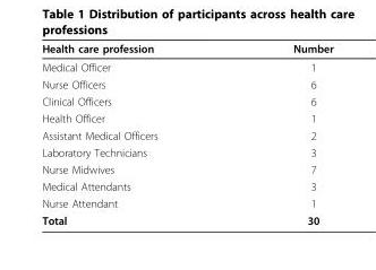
<table><thead><tr><td>Health care profession</td><td>Number</td></tr></thead><tbody><tr><td>Medical Officer</td><td>1</td></tr><tr><td>Nurse Officers</td><td>6</td></tr><tr><td>Clinical Officers</td><td>6</td></tr><tr><td>Health Officer</td><td>1</td></tr><tr><td>Assistant Medical Officers</td><td>2</td></tr><tr><td>Laboratory Technicians</td><td>3</td></tr><tr><td>Nurse Midwives</td><td>7</td></tr><tr><td>Medical Attendants</td><td>3</td></tr><tr><td>Nurse Attendant</td><td>1</td></tr><tr><td>Total</td><td>30</td></tr></tbody></table>